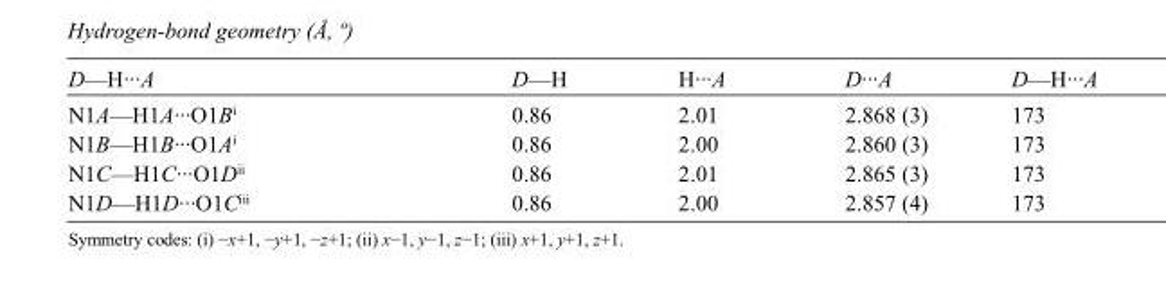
<table><tbody><tr><td>D—H···A</td><td>D—H</td><td>H···A</td><td>D···A</td><td>D—H···A</td></tr><tr><td>N1A—H1A···O1B<sup>i</sup></td><td>0.86</td><td>2.01</td><td>2.868 (3)</td><td>173</td></tr><tr><td>N1B—H1B···O1A<sup>i</sup></td><td>0.86</td><td>2.00</td><td>2.860 (3)</td><td>173</td></tr><tr><td>N1C—H1C···O1D<sup>ii</sup></td><td>0.86</td><td>2.01</td><td>2.865 (3)</td><td>173</td></tr><tr><td>N1D—H1D···O1C<sup>iii</sup></td><td>0.86</td><td>2.00</td><td>2.857 (4)</td><td>173</td></tr></tbody></table>